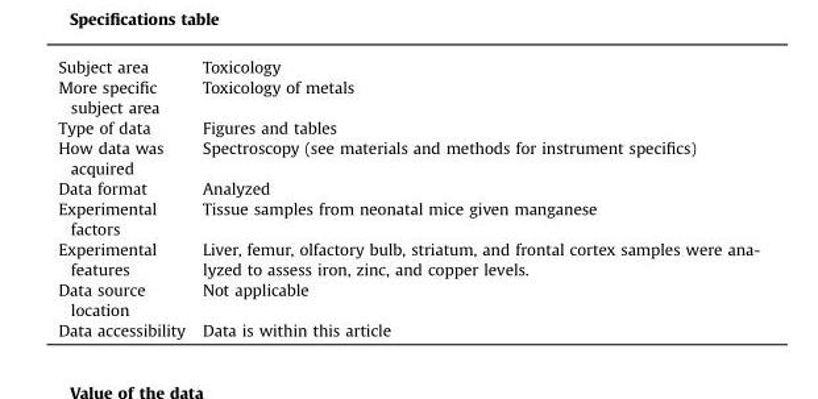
<table><thead><tr><td>Subject area</td><td>Toxicology</td></tr></thead><tbody><tr><td>More specific subject area</td><td>Toxicology of metals</td></tr><tr><td>Type of data</td><td>Figures and tables</td></tr><tr><td>How data was acquired</td><td>Spectroscopy (see materials and methods for instrument specifics)</td></tr><tr><td>Data format</td><td>Analyzed</td></tr><tr><td>Experimental factors</td><td>Tissue samples from neonatal mice given manganese</td></tr><tr><td>Experimental features</td><td>Liver, femur, olfactory bulb, striatum, and frontal cortex samples were ana- lyzed to assess iron, zinc, and copper levels.</td></tr><tr><td>Data source location</td><td>Not applicable</td></tr><tr><td>Data accessibility</td><td>Data is within this article</td></tr></tbody></table>